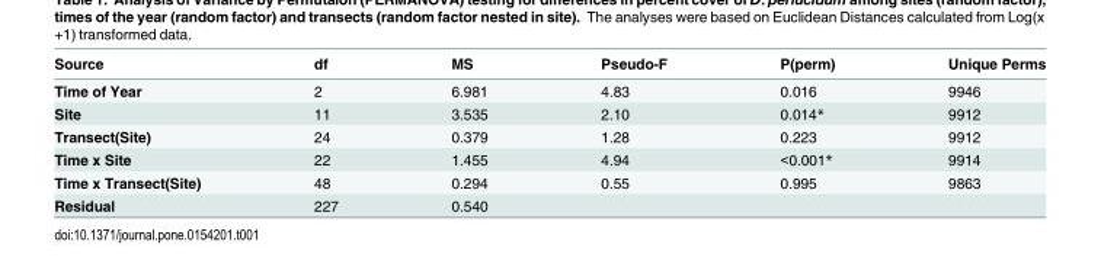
<table><thead><tr><td>Source</td><td>df</td><td>MS</td><td>Pseudo-F</td><td>P(perm)</td><td>Unique Perms</td></tr></thead><tbody><tr><td>Time of Year</td><td>2</td><td>6.981</td><td>4.83</td><td>0.016</td><td>9946</td></tr><tr><td>Site</td><td>11</td><td>3.535</td><td>2.10</td><td>0.014*</td><td>9912</td></tr><tr><td>Transect(Site)</td><td>24</td><td>0.379</td><td>1.28</td><td>0.223</td><td>9912</td></tr><tr><td>Time x Site</td><td>22</td><td>1.455</td><td>4.94</td><td>&lt;0.001*</td><td>9914</td></tr><tr><td>Time x Transect(Site)</td><td>48</td><td>0.294</td><td>0.55</td><td>0.995</td><td>9863</td></tr><tr><td>Residual</td><td>227</td><td>0.540</td><td></td><td></td><td></td></tr></tbody></table>